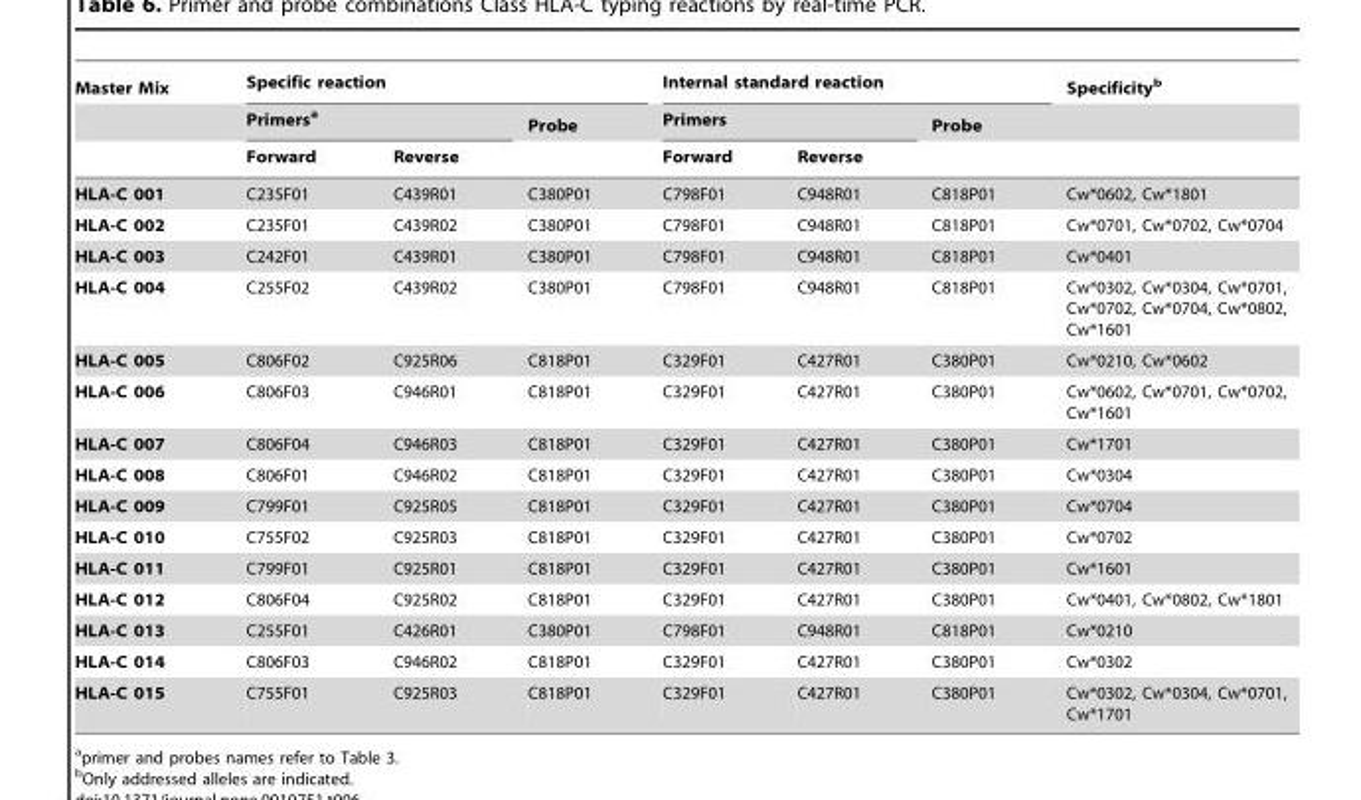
<table><thead><tr><td rowspan="3">Master Mix</td><td colspan="3">Specific reaction</td><td colspan="3">Internal standard reaction</td><td rowspan="3">Specificity<sup>b</sup></td></tr><tr><td colspan="2">Primers<sup>a</sup></td><td rowspan="2">Probe</td><td colspan="2">Primers</td><td rowspan="2">Probe</td></tr><tr><td>Forward</td><td>Reverse</td><td>Forward</td><td>Reverse</td></tr></thead><tbody><tr><td>HLA-C 001</td><td>C235F01</td><td>C439R01</td><td>C380P01</td><td>C798F01</td><td>C948R01</td><td>C818P01</td><td>Cw*0602, Cw*1801</td></tr><tr><td>HLA-C 002</td><td>C235F01</td><td>C439R02</td><td>C380P01</td><td>C798F01</td><td>C948R01</td><td>C818P01</td><td>Cw*0701, Cw*0702, Cw*0704</td></tr><tr><td>HLA-C 003</td><td>C242F01</td><td>C439R01</td><td>C380P01</td><td>C798F01</td><td>C948R01</td><td>C818P01</td><td>Cw*0401</td></tr><tr><td>HLA-C 004</td><td>C255F02</td><td>C439R02</td><td>C380P01</td><td>C798F01</td><td>C948R01</td><td>C818P01</td><td>Cw*0302, Cw*0304, Cw*0701, Cw*0702, Cw*0704, Cw*0802, Cw*1601</td></tr><tr><td>HLA-C 005</td><td>C806F02</td><td>C925R06</td><td>C818P01</td><td>C329F01</td><td>C427R01</td><td>C380P01</td><td>Cw*0210, Cw*0602</td></tr><tr><td>HLA-C 006</td><td>C806F03</td><td>C946R01</td><td>C818P01</td><td>C329F01</td><td>C427R01</td><td>C380P01</td><td>Cw*0602, Cw*0701, Cw*0702, Cw*1601</td></tr><tr><td>HLA-C 007</td><td>C806F04</td><td>C946R03</td><td>C818P01</td><td>C329F01</td><td>C427R01</td><td>C380P01</td><td>Cw*1701</td></tr><tr><td>HLA-C 008</td><td>C806F01</td><td>C946R02</td><td>C818P01</td><td>C329F01</td><td>C427R01</td><td>C380P01</td><td>Cw*0304</td></tr><tr><td>HLA-C 009</td><td>C799F01</td><td>C925R05</td><td>C818P01</td><td>C329F01</td><td>C427R01</td><td>C380P01</td><td>Cw*0704</td></tr><tr><td>HLA-C 010</td><td>C755F02</td><td>C925R03</td><td>C818P01</td><td>C329F01</td><td>C427R01</td><td>C380P01</td><td>Cw*0702</td></tr><tr><td>HLA-C 011</td><td>C799F01</td><td>C925R01</td><td>C818P01</td><td>C329F01</td><td>C427R01</td><td>C380P01</td><td>Cw*1601</td></tr><tr><td>HLA-C 012</td><td>C806F04</td><td>C925R02</td><td>C818P01</td><td>C329F01</td><td>C427R01</td><td>C380P01</td><td>Cw*0401, Cw*0802, Cw*1801</td></tr><tr><td>HLA-C 013</td><td>C255F01</td><td>C426R01</td><td>C380P01</td><td>C798F01</td><td>C948R01</td><td>C818P01</td><td>Cw*0210</td></tr><tr><td>HLA-C 014</td><td>C806F03</td><td>C946R02</td><td>C818P01</td><td>C329F01</td><td>C427R01</td><td>C380P01</td><td>Cw*0302</td></tr><tr><td>HLA-C 015</td><td>C755F01</td><td>C925R03</td><td>C818P01</td><td>C329F01</td><td>C427R01</td><td>C380P01</td><td>Cw*0302, Cw*0304, Cw*0701, Cw*1701</td></tr></tbody></table>